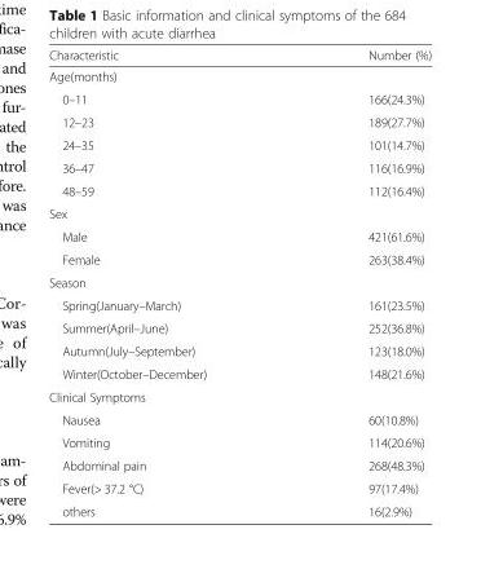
<table><thead><tr><td>Characteristic</td><td>Number (%)</td></tr></thead><tbody><tr><td colspan="2">Age(months)</td></tr><tr><td>0–11</td><td>166(24.3%)</td></tr><tr><td>12–23</td><td>189(27.7%)</td></tr><tr><td>24–35</td><td>101(14.7%)</td></tr><tr><td>36–47</td><td>116(16.9%)</td></tr><tr><td>48–59</td><td>112(16.4%)</td></tr><tr><td colspan="2">Sex</td></tr><tr><td>Male</td><td>421(61.6%)</td></tr><tr><td>Female</td><td>263(38.4%)</td></tr><tr><td colspan="2">Season</td></tr><tr><td>Spring(January–March)</td><td>161(23.5%)</td></tr><tr><td>Summer(April–June)</td><td>252(36.8%)</td></tr><tr><td>Autumn(July–September)</td><td>123(18.0%)</td></tr><tr><td>Winter(October–December)</td><td>148(21.6%)</td></tr><tr><td colspan="2">Clinical Symptoms</td></tr><tr><td>Nausea</td><td>60(10.8%)</td></tr><tr><td>Vomiting</td><td>114(20.6%)</td></tr><tr><td>Abdominal pain</td><td>268(48.3%)</td></tr><tr><td>Fever(&gt; 37.2 °C)</td><td>97(17.4%)</td></tr><tr><td>others</td><td>16(2.9%)</td></tr></tbody></table>